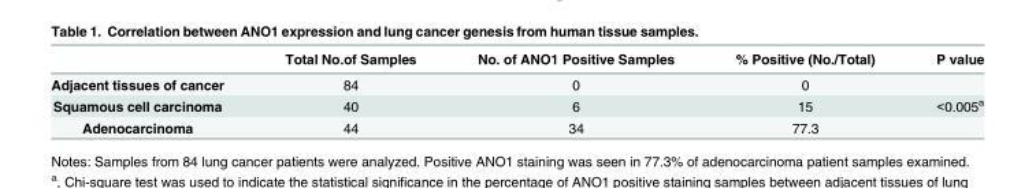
<table><thead><tr><td></td><td>Total No.of Samples</td><td>No. of ANO1 Positive Samples</td><td>% Positive (No./Total)</td><td>P value</td></tr></thead><tbody><tr><td>Adjacent tissues of cancer</td><td>84</td><td>0</td><td>0</td><td></td></tr><tr><td>Squamous cell carcinoma</td><td>40</td><td>6</td><td>15</td><td>&lt;0.005<sup>a</sup></td></tr><tr><td>Adenocarcinoma</td><td>44</td><td>34</td><td>77.3</td><td></td></tr></tbody></table>